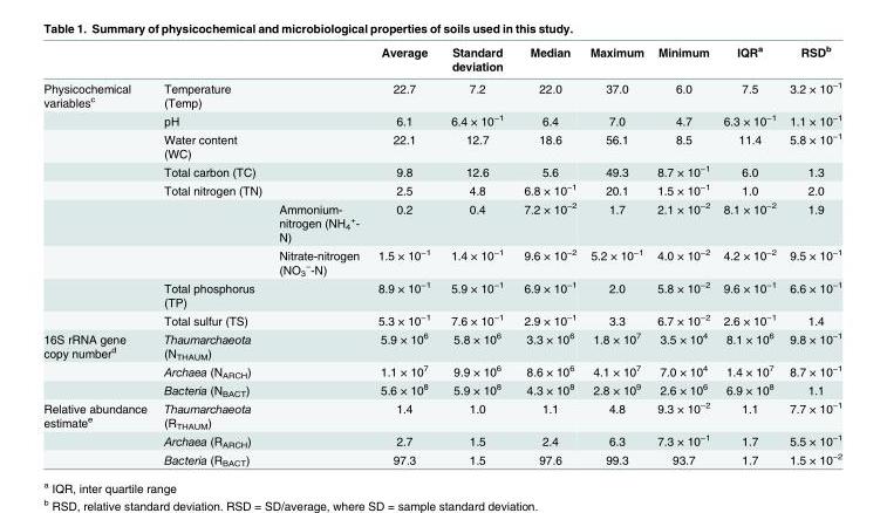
<table><thead><tr><td></td><td></td><td></td><td>Average</td><td>Standard deviation</td><td>Median</td><td>Maximum</td><td>Minimum</td><td>IQR<sup>a</sup></td><td>RSD<sup>b</sup></td></tr></thead><tbody><tr><td rowspan="9">Physicochemical variables<sup>c</sup></td><td>Temperature (Temp)</td><td></td><td>22.7</td><td>7.2</td><td>22.0</td><td>37.0</td><td>6.0</td><td>7.5</td><td>3.2 × 10<sup>−1</sup></td></tr><tr><td>pH</td><td></td><td>6.1</td><td>6.4 × 10<sup>−1</sup></td><td>6.4</td><td>7.0</td><td>4.7</td><td>6.3 × 10<sup>−1</sup></td><td>1.1 × 10<sup>−1</sup></td></tr><tr><td>Water content (WC)</td><td></td><td>22.1</td><td>12.7</td><td>18.6</td><td>56.1</td><td>8.5</td><td>11.4</td><td>5.8 × 10<sup>−1</sup></td></tr><tr><td>Total carbon (TC)</td><td></td><td>9.8</td><td>12.6</td><td>5.6</td><td>49.3</td><td>8.7 × 10<sup>−1</sup></td><td>6.0</td><td>1.3</td></tr><tr><td>Total nitrogen (TN)</td><td></td><td>2.5</td><td>4.8</td><td>6.8 × 10<sup>−1</sup></td><td>20.1</td><td>1.5 × 10<sup>−1</sup></td><td>1.0</td><td>2.0</td></tr><tr><td></td><td>Ammonium- nitrogen (NH<sub>4</sub> <sup>+</sup>- N)</td><td>0.2</td><td>0.4</td><td>7.2 × 10<sup>−2</sup></td><td>1.7</td><td>2.1 × 10<sup>−2</sup></td><td>8.1 × 10<sup>−2</sup></td><td>1.9</td></tr><tr><td></td><td>Nitrate-nitrogen (NO<sub>3</sub> <sup>−</sup>-N)</td><td>1.5 × 10<sup>−1</sup></td><td>1.4 × 10<sup>−1</sup></td><td>9.6 × 10<sup>−2</sup></td><td>5.2 × 10<sup>−1</sup></td><td>4.0 × 10<sup>−2</sup></td><td>4.2 × 10<sup>−2</sup></td><td>9.5 × 10<sup>−1</sup></td></tr><tr><td>Total phosphorus (TP)</td><td></td><td>8.9 × 10<sup>−1</sup></td><td>5.9 × 10<sup>−1</sup></td><td>6.9 × 10<sup>−1</sup></td><td>2.0</td><td>5.8 × 10<sup>−2</sup></td><td>9.6 × 10<sup>−1</sup></td><td>6.6 × 10<sup>−1</sup></td></tr><tr><td>Total sulfur (TS)</td><td></td><td>5.3 × 10<sup>−1</sup></td><td>7.6 × 10<sup>−1</sup></td><td>2.9 × 10<sup>−1</sup></td><td>3.3</td><td>6.7 × 10<sup>−2</sup></td><td>2.6 × 10<sup>−1</sup></td><td>1.4</td></tr><tr><td rowspan="3">16S rRNA gene copy number<sup>d</sup></td><td>Thaumarchaeota (N<sub>THAUM</sub>)</td><td></td><td>5.9 × 10<sup>6</sup></td><td>5.8 × 10<sup>6</sup></td><td>3.3 × 10<sup>6</sup></td><td>1.8 × 10<sup>7</sup></td><td>3.5 × 10<sup>4</sup></td><td>8.1 × 10<sup>6</sup></td><td>9.8 × 10<sup>−1</sup></td></tr><tr><td>Archaea (N<sub>ARCH</sub>)</td><td></td><td>1.1 × 10<sup>7</sup></td><td>9.9 × 10<sup>6</sup></td><td>8.6 × 10<sup>6</sup></td><td>4.1 × 10<sup>7</sup></td><td>7.0 × 10<sup>4</sup></td><td>1.4 × 10<sup>7</sup></td><td>8.7 × 10<sup>−1</sup></td></tr><tr><td>Bacteria (N<sub>BACT</sub>)</td><td></td><td>5.6 × 10<sup>8</sup></td><td>5.9 × 10<sup>8</sup></td><td>4.3 × 10<sup>8</sup></td><td>2.8 × 10<sup>9</sup></td><td>2.6 × 10<sup>6</sup></td><td>6.9 × 10<sup>8</sup></td><td>1.1</td></tr><tr><td rowspan="3">Relative abundance estimate<sup>e</sup></td><td>Thaumarchaeota (R<sub>THAUM</sub>)</td><td></td><td>1.4</td><td>1.0</td><td>1.1</td><td>4.8</td><td>9.3 × 10<sup>−2</sup></td><td>1.1</td><td>7.7 × 10<sup>−1</sup></td></tr><tr><td>Archaea (R<sub>ARCH</sub>)</td><td></td><td>2.7</td><td>1.5</td><td>2.4</td><td>6.3</td><td>7.3 × 10<sup>−1</sup></td><td>1.7</td><td>5.5 × 10<sup>−1</sup></td></tr><tr><td>Bacteria (R<sub>BACT</sub>)</td><td></td><td>97.3</td><td>1.5</td><td>97.6</td><td>99.3</td><td>93.7</td><td>1.7</td><td>1.5 × 10<sup>−2</sup></td></tr></tbody></table>